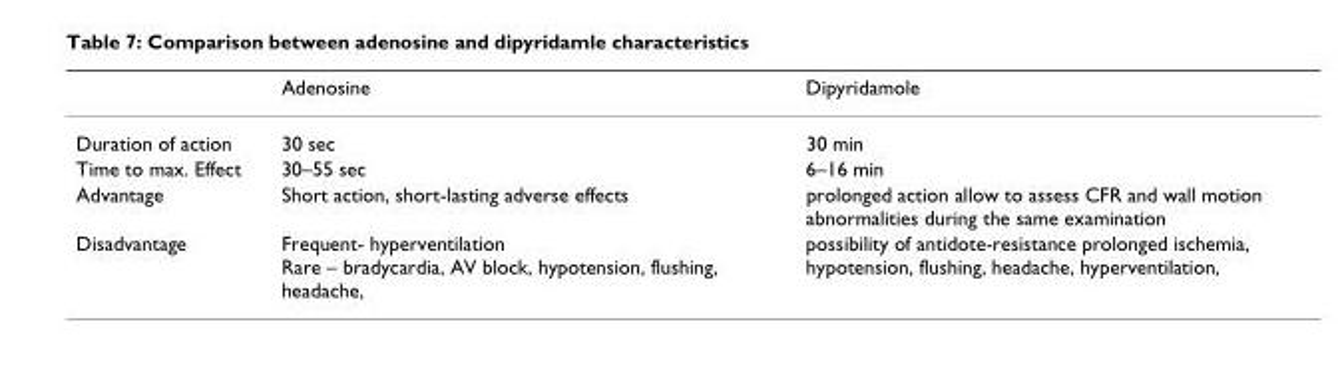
<table><thead><tr><td></td><td>Adenosine</td><td>Dipyridamole</td></tr></thead><tbody><tr><td>Duration of action</td><td>30 sec</td><td>30 min</td></tr><tr><td>Time to max. Effect</td><td>30–55 sec</td><td>6–16 min</td></tr><tr><td>Advantage</td><td>Short action, short-lasting adverse effects</td><td>prolonged action allow to assess CFR and wall motion abnormalities during the same examination</td></tr><tr><td>Disadvantage</td><td>Frequent- hyperventilation Rare – bradycardia, AV block, hypotension, flushing, headache,</td><td>possibility of antidote-resistance prolonged ischemia, hypotension, flushing, headache, hyperventilation,</td></tr></tbody></table>